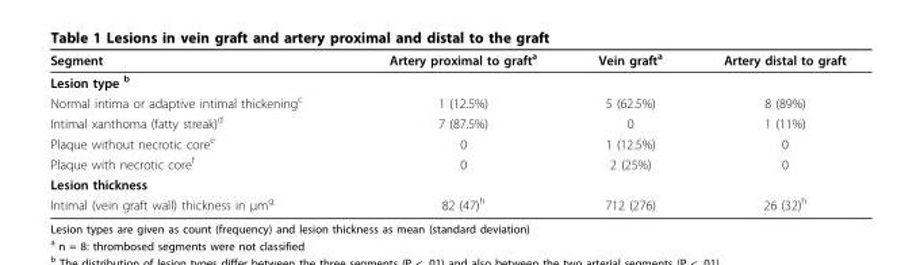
<table><thead><tr><td>Segment</td><td>Artery proximal to graft<sup>a</sup></td><td>Vein graft<sup>a</sup></td><td>Artery distal to graft</td></tr></thead><tbody><tr><td colspan="4">Lesion type <sup>b</sup></td></tr><tr><td>Normal intima or adaptive intimal thickening<sup>c</sup></td><td>1 (12.5%)</td><td>5 (62.5%)</td><td>8 (89%)</td></tr><tr><td>Intimal xanthoma (fatty streak)<sup>d</sup></td><td>7 (87.5%)</td><td>0</td><td>1 (11%)</td></tr><tr><td>Plaque without necrotic core<sup>e</sup></td><td>0</td><td>1 (12.5%)</td><td>0</td></tr><tr><td>Plaque with necrotic core<sup>f</sup></td><td>0</td><td>2 (25%)</td><td>0</td></tr><tr><td colspan="4">Lesion thickness</td></tr><tr><td>Intimal (vein graft wall) thickness in μm<sup>g</sup></td><td>82 (47)<sup>h</sup></td><td>712 (276)</td><td>26 (32)<sup>h</sup></td></tr></tbody></table>